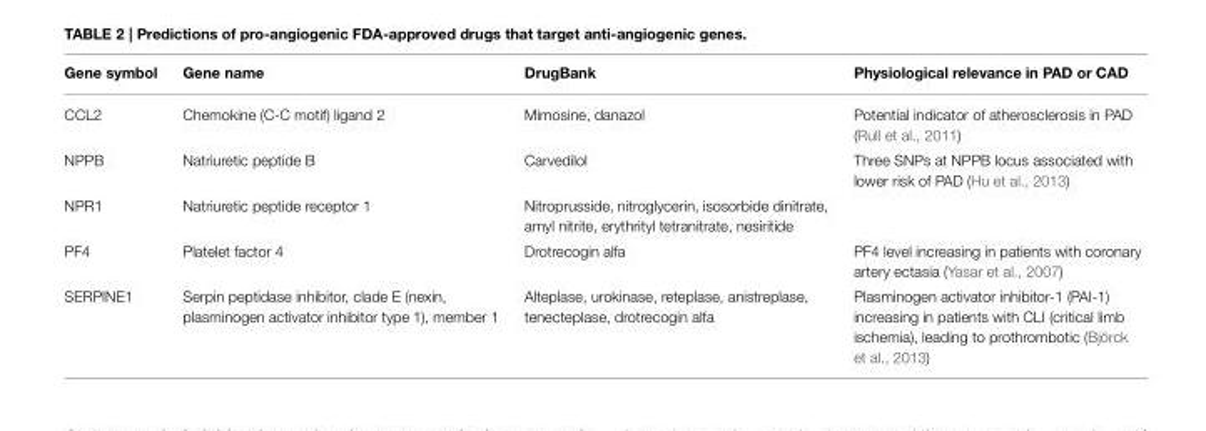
<table><thead><tr><td>Gene symbol</td><td>Gene name</td><td>DrugBank</td><td>Physiological relevance in PAD or CAD</td></tr></thead><tbody><tr><td>CCL2</td><td>Chemokine (C-C motif) ligand 2</td><td>Mimosine, danazol</td><td>Potential indicator of atherosclerosis in PAD (Rull et al., 2011)</td></tr><tr><td>NPPB</td><td>Natriuretic peptide B</td><td>Carvedilol</td><td>Three SNPs at NPPB locus associated with lower risk of PAD (Hu et al., 2013)</td></tr><tr><td>NPR1</td><td>Natriuretic peptide receptor 1</td><td>Nitroprusside, nitroglycerin, isosorbide dinitrate, amyl nitrite, erythrityl tetranitrate, nesiritide</td><td></td></tr><tr><td>PF4</td><td>Platelet factor 4</td><td>Drotrecogin alfa</td><td>PF4 level increasing in patients with coronary artery ectasia (Yasar et al., 2007)</td></tr><tr><td>SERPINE1</td><td>Serpin peptidase inhibitor, clade E (nexin, plasminogen activator inhibitor type 1), member 1</td><td>Alteplase, urokinase, reteplase, anistreplase, tenecteplase, drotrecogin alfa</td><td>Plasminogen activator inhibitor-1 (PAI-1) increasing in patients with CLI (critical limb ischemia), leading to prothrombotic (Björck et al., 2013)</td></tr></tbody></table>